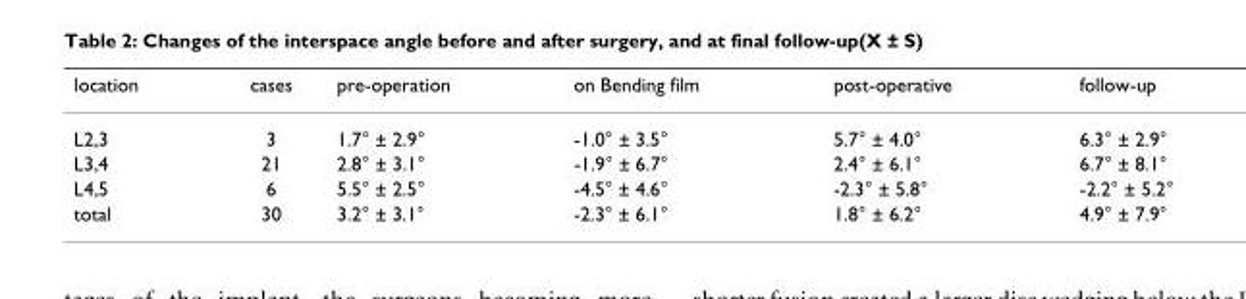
<table><thead><tr><td>location</td><td>cases</td><td>pre-operation</td><td>on Bending film</td><td>post-operative</td><td>follow-up</td></tr></thead><tbody><tr><td>L2,3</td><td>3</td><td>1.7° ± 2.9°</td><td>-1.0° ± 3.5°</td><td>5.7° ± 4.0°</td><td>6.3° ± 2.9°</td></tr><tr><td>L3,4</td><td>21</td><td>2.8° ± 3.1°</td><td>-1.9° ± 6.7°</td><td>2.4° ± 6.1°</td><td>6.7° ± 8.1°</td></tr><tr><td>L4,5</td><td>6</td><td>5.5° ± 2.5°</td><td>-4.5° ± 4.6°</td><td>-2.3° ± 5.8°</td><td>-2.2° ± 5.2°</td></tr><tr><td>total</td><td>30</td><td>3.2° ± 3.1°</td><td>-2.3° ± 6.1°</td><td>1.8° ± 6.2°</td><td>4.9° ± 7.9°</td></tr></tbody></table>